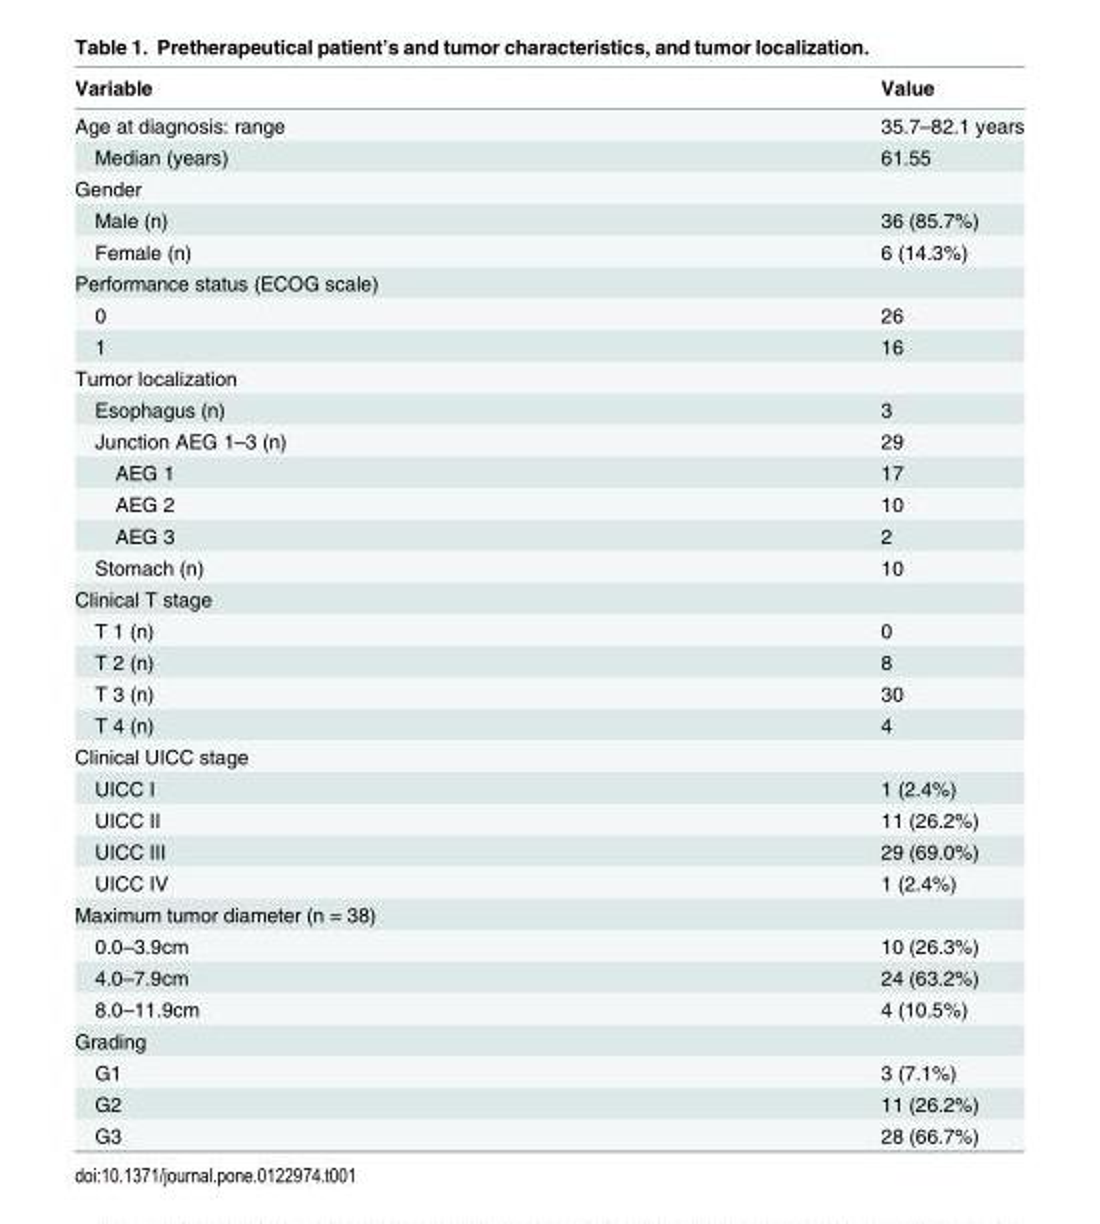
<table><thead><tr><td>Variable</td><td>Value</td></tr></thead><tbody><tr><td>Age at diagnosis: range</td><td>35.7–82.1 years</td></tr><tr><td>Median (years)</td><td>61.55</td></tr><tr><td colspan="2">Gender</td></tr><tr><td>Male (n)</td><td>36 (85.7%)</td></tr><tr><td>Female (n)</td><td>6 (14.3%)</td></tr><tr><td colspan="2">Performance status (ECOG scale)</td></tr><tr><td>0</td><td>26</td></tr><tr><td>1</td><td>16</td></tr><tr><td colspan="2">Tumor localization</td></tr><tr><td>Esophagus (n)</td><td>3</td></tr><tr><td>Junction AEG 1–3 (n)</td><td>29</td></tr><tr><td>AEG 1</td><td>17</td></tr><tr><td>AEG 2</td><td>10</td></tr><tr><td>AEG 3</td><td>2</td></tr><tr><td>Stomach (n)</td><td>10</td></tr><tr><td colspan="2">Clinical T stage</td></tr><tr><td>T 1 (n)</td><td>0</td></tr><tr><td>T 2 (n)</td><td>8</td></tr><tr><td>T 3 (n)</td><td>30</td></tr><tr><td>T 4 (n)</td><td>4</td></tr><tr><td colspan="2">Clinical UICC stage</td></tr><tr><td>UICC I</td><td>1 (2.4%)</td></tr><tr><td>UICC II</td><td>11 (26.2%)</td></tr><tr><td>UICC III</td><td>29 (69.0%)</td></tr><tr><td>UICC IV</td><td>1 (2.4%)</td></tr><tr><td colspan="2">Maximum tumor diameter (n = 38)</td></tr><tr><td>0.0–3.9cm</td><td>10 (26.3%)</td></tr><tr><td>4.0–7.9cm</td><td>24 (63.2%)</td></tr><tr><td>8.0–11.9cm</td><td>4 (10.5%)</td></tr><tr><td colspan="2">Grading</td></tr><tr><td>G1</td><td>3 (7.1%)</td></tr><tr><td>G2</td><td>11 (26.2%)</td></tr><tr><td>G3</td><td>28 (66.7%)</td></tr></tbody></table>